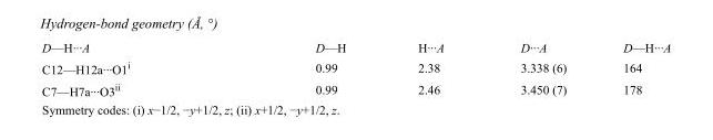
<table><tbody><tr><td>D—H···A</td><td>D—H</td><td>H···A</td><td>D···A</td><td>D—H···A</td></tr><tr><td>C12—H12a···O1<sup>i</sup></td><td>0.99</td><td>2.38</td><td>3.338 (6)</td><td>164</td></tr><tr><td>C7—H7a···O3<sup>ii</sup></td><td>0.99</td><td>2.46</td><td>3.450 (7)</td><td>178</td></tr></tbody></table>